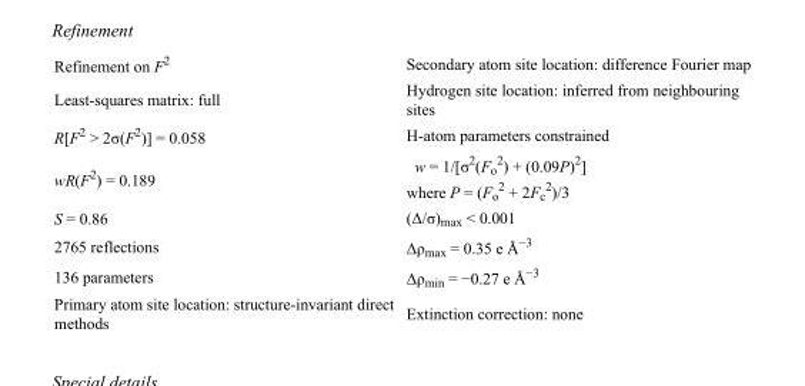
<table><tbody><tr><td>Refinement on F<sup>2</sup></td><td>Secondary atom site location: difference Fourier map</td></tr><tr><td>Least-squares matrix: full</td><td>Hydrogen site location: inferred from neighbouring sites</td></tr><tr><td>R[F<sup>2</sup> &gt; 2σ(F<sup>2</sup>)] = 0.058</td><td>H-atom parameters constrained</td></tr><tr><td>wR(F<sup>2</sup>) = 0.189</td><td>w = 1/[σ<sup>2</sup>(F<sub>o</sub> <sup>2</sup>) + (0.09P)<sup>2</sup>] where P = (F<sub>o</sub> <sup>2</sup> + 2F<sub>c</sub> <sup>2</sup>)/3</td></tr><tr><td>S = 0.86</td><td>(Δ/σ)<sub>max</sub> &lt; 0.001</td></tr><tr><td>2765 reflections</td><td>Δρ<sub>max</sub> = 0.35 e Å<sup>−3</sup></td></tr><tr><td>136 parameters</td><td>Δρ<sub>min</sub> = −0.27 e Å<sup>−3</sup></td></tr><tr><td>Primary atom site location: structure-invariant direct methods</td><td>Extinction correction: none</td></tr></tbody></table>